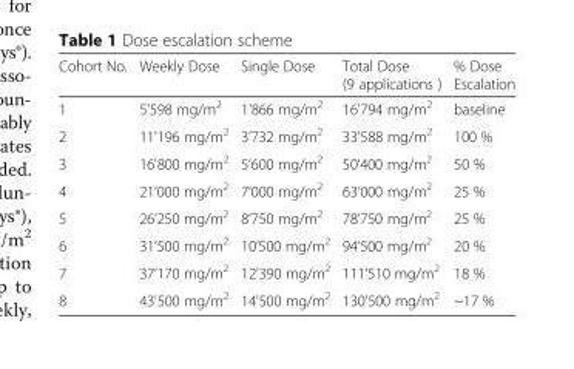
<table><thead><tr><td>Cohort No.</td><td>Weekly Dose</td><td>Single Dose</td><td>Total Dose (9 applications )</td><td>% Dose Escalation</td></tr></thead><tbody><tr><td>1</td><td>5&#x27;598 mg/m<sup>2</sup></td><td>1&#x27;866 mg/m<sup>2</sup></td><td>16&#x27;794 mg/m<sup>2</sup></td><td>baseline</td></tr><tr><td>2</td><td>11&#x27;196 mg/m<sup>2</sup></td><td>3’732 mg/m<sup>2</sup></td><td>33&#x27;588 mg/m<sup>2</sup></td><td>100 %</td></tr><tr><td>3</td><td>16&#x27;800 mg/m<sup>2</sup></td><td>5‘600 mg/m<sup>2</sup></td><td>50‘400 mg/m<sup>2</sup></td><td>50 %</td></tr><tr><td>4</td><td>21‘000 mg/m<sup>2</sup></td><td>7‘000 mg/m<sup>2</sup></td><td>63‘000 mg/m<sup>2</sup></td><td>25 %</td></tr><tr><td>5</td><td>26‘250 mg/m<sup>2</sup></td><td>8‘750 mg/m<sup>2</sup></td><td>78‘750 mg/m<sup>2</sup></td><td>25 %</td></tr><tr><td>6</td><td>31‘500 mg/m<sup>2</sup></td><td>10‘500 mg/m<sup>2</sup></td><td>94‘500 mg/m<sup>2</sup></td><td>20 %</td></tr><tr><td>7</td><td>37‘170 mg/m<sup>2</sup></td><td>12&#x27;390 mg/m<sup>2</sup></td><td>111‘510 mg/m<sup>2</sup></td><td>18 %</td></tr><tr><td>8</td><td>43&#x27;500 mg/m<sup>2</sup></td><td>14&#x27;500 mg/m<sup>2</sup></td><td>130&#x27;500 mg/m<sup>2</sup></td><td>~17 %</td></tr></tbody></table>